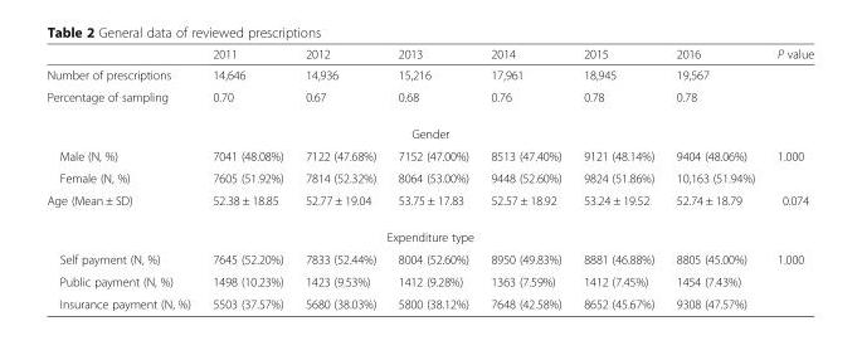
<table><thead><tr><td></td><td>2011</td><td>2012</td><td>2013</td><td>2014</td><td>2015</td><td>2016</td><td>P value</td></tr></thead><tbody><tr><td>Number of prescriptions</td><td>14,646</td><td>14,936</td><td>15,216</td><td>17,961</td><td>18,945</td><td>19,567</td><td></td></tr><tr><td>Percentage of sampling</td><td>0.70</td><td>0.67</td><td>0.68</td><td>0.76</td><td>0.78</td><td>0.78</td><td></td></tr><tr><td colspan="8">Gender</td></tr><tr><td>Male (N, %)</td><td>7041 (48.08%)</td><td>7122 (47.68%)</td><td>7152 (47.00%)</td><td>8513 (47.40%)</td><td>9121 (48.14%)</td><td>9404 (48.06%)</td><td rowspan="2">1.000</td></tr><tr><td>Female (N, %)</td><td>7605 (51.92%)</td><td>7814 (52.32%)</td><td>8064 (53.00%)</td><td>9448 (52.60%)</td><td>9824 (51.86%)</td><td>10,163 (51.94%)</td></tr><tr><td>Age (Mean ± SD)</td><td>52.38 ± 18.85</td><td>52.77 ± 19.04</td><td>53.75 ± 17.83</td><td>52.57 ± 18.92</td><td>53.24 ± 19.52</td><td>52.74 ± 18.79</td><td>0.074</td></tr><tr><td colspan="8">Expenditure type</td></tr><tr><td>Self payment (N, %)</td><td>7645 (52.20%)</td><td>7833 (52.44%)</td><td>8004 (52.60%)</td><td>8950 (49.83%)</td><td>8881 (46.88%)</td><td>8805 (45.00%)</td><td rowspan="3">1.000</td></tr><tr><td>Public payment (N, %)</td><td>1498 (10.23%)</td><td>1423 (9.53%)</td><td>1412 (9.28%)</td><td>1363 (7.59%)</td><td>1412 (7.45%)</td><td>1454 (7.43%)</td></tr><tr><td>Insurance payment (N, %)</td><td>5503 (37.57%)</td><td>5680 (38.03%)</td><td>5800 (38.12%)</td><td>7648 (42.58%)</td><td>8652 (45.67%)</td><td>9308 (47.57%)</td></tr></tbody></table>